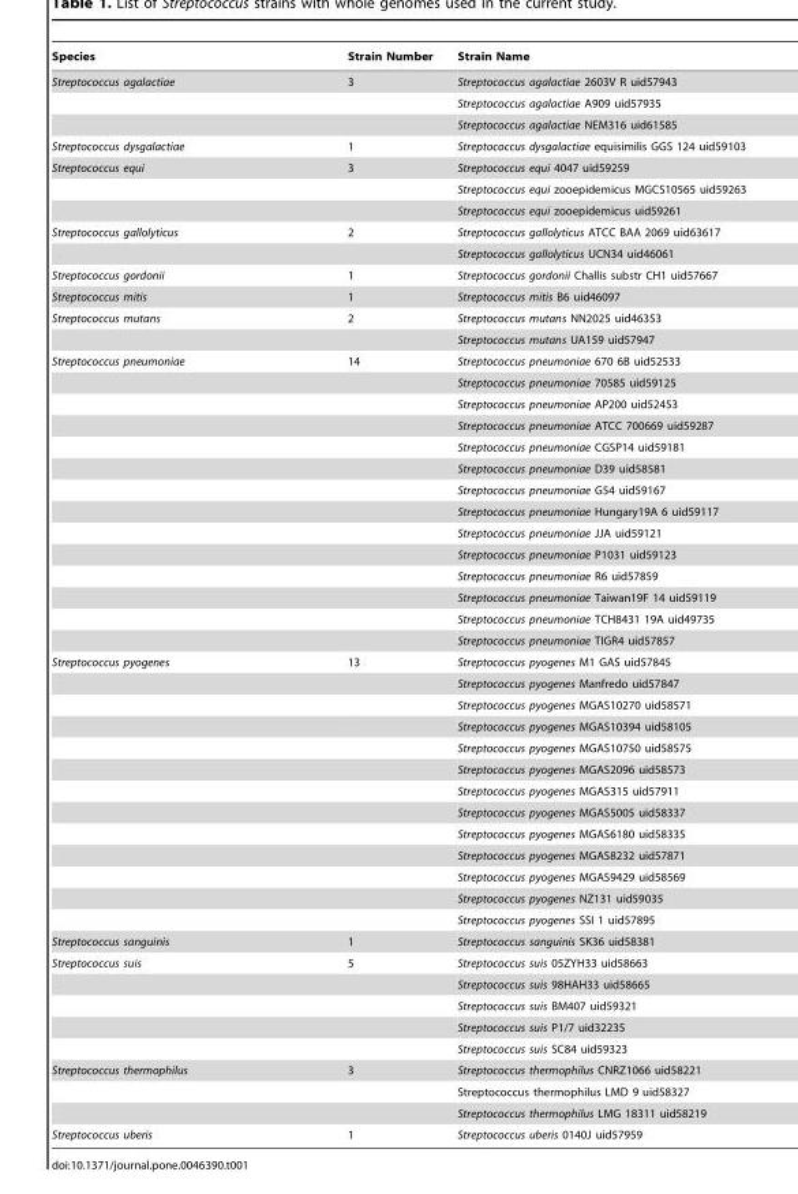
<table><thead><tr><td>Species</td><td>Strain Number</td><td>Strain Name</td></tr></thead><tbody><tr><td rowspan="3">Streptococcus agalactiae</td><td>3</td><td>Streptococcus agalactiae 2603V R uid57943</td></tr><tr><td></td><td>Streptococcus agalactiae A909 uid57935</td></tr><tr><td></td><td>Streptococcus agalactiae NEM316 uid61585</td></tr><tr><td>Streptococcus dysgalactiae</td><td>1</td><td>Streptococcus dysgalactiae equisimilis GGS 124 uid59103</td></tr><tr><td rowspan="3">Streptococcus equi</td><td>3</td><td>Streptococcus equi 4047 uid59259</td></tr><tr><td></td><td>Streptococcus equi zooepidemicus MGCS10565 uid59263</td></tr><tr><td></td><td>Streptococcus equi zooepidemicus uid59261</td></tr><tr><td rowspan="2">Streptococcus gallolyticus</td><td>2</td><td>Streptococcus gallolyticus ATCC BAA 2069 uid63617</td></tr><tr><td></td><td>Streptococcus gallolyticus UCN34 uid46061</td></tr><tr><td>Streptococcus gordonii</td><td>1</td><td>Streptococcus gordonii Challis substr CH1 uid57667</td></tr><tr><td>Streptococcus mitis</td><td>1</td><td>Streptococcus mitis B6 uid46097</td></tr><tr><td rowspan="2">Streptococcus mutans</td><td>2</td><td>Streptococcus mutans NN2025 uid46353</td></tr><tr><td></td><td>Streptococcus mutans UA159 uid57947</td></tr><tr><td rowspan="14">Streptococcus pneumoniae</td><td>14</td><td>Streptococcus pneumoniae 670 6B uid52533</td></tr><tr><td></td><td>Streptococcus pneumoniae 70585 uid59125</td></tr><tr><td></td><td>Streptococcus pneumoniae AP200 uid52453</td></tr><tr><td></td><td>Streptococcus pneumoniae ATCC 700669 uid59287</td></tr><tr><td></td><td>Streptococcus pneumoniae CGSP14 uid59181</td></tr><tr><td></td><td>Streptococcus pneumoniae D39 uid58581</td></tr><tr><td></td><td>Streptococcus pneumoniae G54 uid59167</td></tr><tr><td></td><td>Streptococcus pneumoniae Hungary19A 6 uid59117</td></tr><tr><td></td><td>Streptococcus pneumoniae JJA uid59121</td></tr><tr><td></td><td>Streptococcus pneumoniae P1031 uid59123</td></tr><tr><td></td><td>Streptococcus pneumoniae R6 uid57859</td></tr><tr><td></td><td>Streptococcus pneumoniae Taiwan19F 14 uid59119</td></tr><tr><td></td><td>Streptococcus pneumoniae TCH8431 19A uid49735</td></tr><tr><td></td><td>Streptococcus pneumoniae TIGR4 uid57857</td></tr><tr><td rowspan="13">Streptococcus pyogenes</td><td>13</td><td>Streptococcus pyogenes M1 GAS uid57845</td></tr><tr><td></td><td>Streptococcus pyogenes Manfredo uid57847</td></tr><tr><td></td><td>Streptococcus pyogenes MGAS10270 uid58571</td></tr><tr><td></td><td>Streptococcus pyogenes MGAS10394 uid58105</td></tr><tr><td></td><td>Streptococcus pyogenes MGAS10750 uid58575</td></tr><tr><td></td><td>Streptococcus pyogenes MGAS2096 uid58573</td></tr><tr><td></td><td>Streptococcus pyogenes MGAS315 uid57911</td></tr><tr><td></td><td>Streptococcus pyogenes MGAS5005 uid58337</td></tr><tr><td></td><td>Streptococcus pyogenes MGAS6180 uid58335</td></tr><tr><td></td><td>Streptococcus pyogenes MGAS8232 uid57871</td></tr><tr><td></td><td>Streptococcus pyogenes MGAS9429 uid58569</td></tr><tr><td></td><td>Streptococcus pyogenes NZ131 uid59035</td></tr><tr><td></td><td>Streptococcus pyogenes SSI 1 uid57895</td></tr><tr><td>Streptococcus sanguinis</td><td>1</td><td>Streptococcus sanguinis SK36 uid58381</td></tr><tr><td rowspan="5">Streptococcus suis</td><td>5</td><td>Streptococcus suis 05ZYH33 uid58663</td></tr><tr><td></td><td>Streptococcus suis 98HAH33 uid58665</td></tr><tr><td></td><td>Streptococcus suis BM407 uid59321</td></tr><tr><td></td><td>Streptococcus suis P1/7 uid32235</td></tr><tr><td></td><td>Streptococcus suis SC84 uid59323</td></tr><tr><td rowspan="3">Streptococcus thermophilus</td><td>3</td><td>Streptococcus thermophilus CNRZ1066 uid58221</td></tr><tr><td></td><td>Streptococcus thermophilus LMD 9 uid58327</td></tr><tr><td></td><td>Streptococcus thermophilus LMG 18311 uid58219</td></tr><tr><td>Streptococcus uberis</td><td>1</td><td>Streptococcus uberis 0140J uid57959</td></tr></tbody></table>